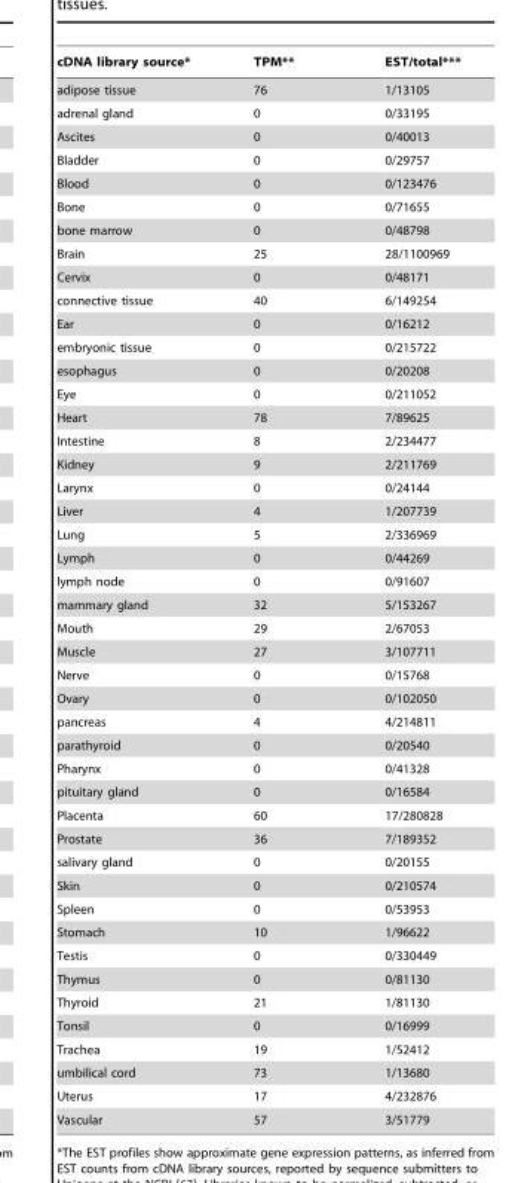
<table><thead><tr><td>cDNA library source*</td><td>TPM**</td><td>EST/total***</td></tr></thead><tbody><tr><td>adipose tissue</td><td>76</td><td>1/13105</td></tr><tr><td>adrenal gland</td><td>0</td><td>0/33195</td></tr><tr><td>Ascites</td><td>0</td><td>0/40013</td></tr><tr><td>Bladder</td><td>0</td><td>0/29757</td></tr><tr><td>Blood</td><td>0</td><td>0/123476</td></tr><tr><td>Bone</td><td>0</td><td>0/71655</td></tr><tr><td>bone marrow</td><td>0</td><td>0/48798</td></tr><tr><td>Brain</td><td>25</td><td>28/1100969</td></tr><tr><td>Cervix</td><td>0</td><td>0/48171</td></tr><tr><td>connective tissue</td><td>40</td><td>6/149254</td></tr><tr><td>Ear</td><td>0</td><td>0/16212</td></tr><tr><td>embryonic tissue</td><td>0</td><td>0/215722</td></tr><tr><td>esophagus</td><td>0</td><td>0/20208</td></tr><tr><td>Eye</td><td>0</td><td>0/211052</td></tr><tr><td>Heart</td><td>78</td><td>7/89625</td></tr><tr><td>Intestine</td><td>8</td><td>2/234477</td></tr><tr><td>Kidney</td><td>9</td><td>2/211769</td></tr><tr><td>Larynx</td><td>0</td><td>0/24144</td></tr><tr><td>Liver</td><td>4</td><td>1/207739</td></tr><tr><td>Lung</td><td>5</td><td>2/336969</td></tr><tr><td>Lymph</td><td>0</td><td>0/44269</td></tr><tr><td>lymph node</td><td>0</td><td>0/91607</td></tr><tr><td>mammary gland</td><td>32</td><td>5/153267</td></tr><tr><td>Mouth</td><td>29</td><td>2/67053</td></tr><tr><td>Muscle</td><td>27</td><td>3/107711</td></tr><tr><td>Nerve</td><td>0</td><td>0/15768</td></tr><tr><td>Ovary</td><td>0</td><td>0/102050</td></tr><tr><td>pancreas</td><td>4</td><td>4/214811</td></tr><tr><td>parathyroid</td><td>0</td><td>0/20540</td></tr><tr><td>Pharynx</td><td>0</td><td>0/41328</td></tr><tr><td>pituitary gland</td><td>0</td><td>0/16584</td></tr><tr><td>Placenta</td><td>60</td><td>17/280828</td></tr><tr><td>Prostate</td><td>36</td><td>7/189352</td></tr><tr><td>salivary gland</td><td>0</td><td>0/20155</td></tr><tr><td>Skin</td><td>0</td><td>0/210574</td></tr><tr><td>Spleen</td><td>0</td><td>0/53953</td></tr><tr><td>Stomach</td><td>10</td><td>1/96622</td></tr><tr><td>Testis</td><td>0</td><td>0/330449</td></tr><tr><td>Thymus</td><td>0</td><td>0/81130</td></tr><tr><td>Thyroid</td><td>21</td><td>1/81130</td></tr><tr><td>Tonsil</td><td>0</td><td>0/16999</td></tr><tr><td>Trachea</td><td>19</td><td>1/52412</td></tr><tr><td>umbilical cord</td><td>73</td><td>1/13680</td></tr><tr><td>Uterus</td><td>17</td><td>4/232876</td></tr><tr><td>Vascular</td><td>57</td><td>3/51779</td></tr></tbody></table>